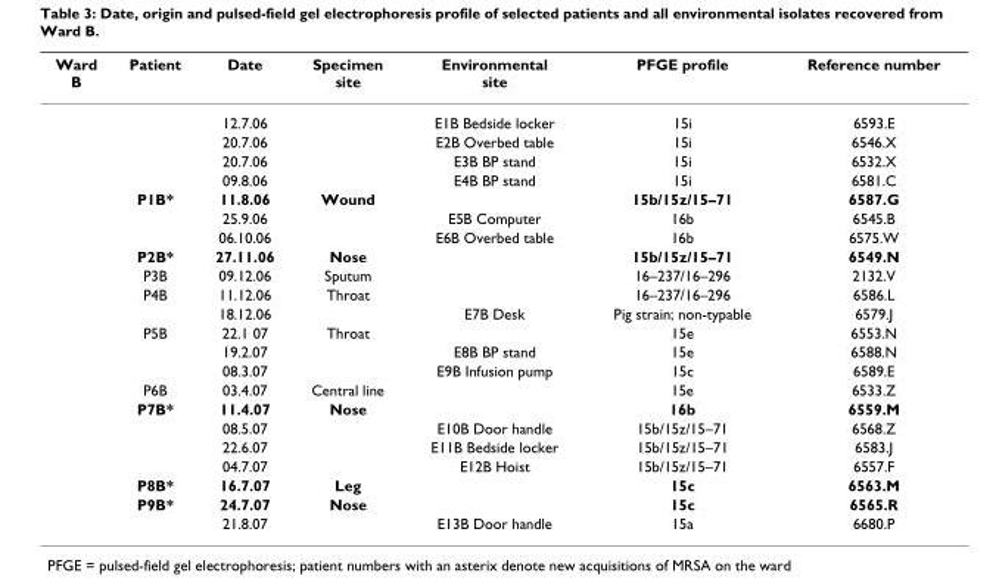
<table><thead><tr><td>Ward B</td><td>Patient</td><td>Date</td><td>Specimen site</td><td>Environmental site</td><td>PFGE profile</td><td>Reference number</td></tr></thead><tbody><tr><td></td><td></td><td>12.7.06</td><td></td><td>E1B Bedside locker</td><td>15i</td><td>6593.E</td></tr><tr><td></td><td></td><td>20.7.06</td><td></td><td>E2B Overbed table</td><td>15i</td><td>6546.X</td></tr><tr><td></td><td></td><td>20.7.06</td><td></td><td>E3B BP stand</td><td>15i</td><td>6532.X</td></tr><tr><td></td><td></td><td>09.8.06</td><td></td><td>E4B BP stand</td><td>15i</td><td>6581.C</td></tr><tr><td></td><td>P1B*</td><td>11.8.06</td><td>Wound</td><td></td><td>15b/15z/15–71</td><td>6587.G</td></tr><tr><td></td><td></td><td>25.9.06</td><td></td><td>E5B Computer</td><td>16b</td><td>6545.B</td></tr><tr><td></td><td></td><td>06.10.06</td><td></td><td>E6B Overbed table</td><td>16b</td><td>6575.W</td></tr><tr><td></td><td>P2B*</td><td>27.11.06</td><td>Nose</td><td></td><td>15b/15z/15–71</td><td>6549.N</td></tr><tr><td></td><td>P3B</td><td>09.12.06</td><td>Sputum</td><td></td><td>16–237/16–296</td><td>2132.V</td></tr><tr><td></td><td>P4B</td><td>11.12.06</td><td>Throat</td><td></td><td>16–237/16–296</td><td>6586.L</td></tr><tr><td></td><td></td><td>18.12.06</td><td></td><td>E7B Desk</td><td>Pig strain; non-typable</td><td>6579.J</td></tr><tr><td></td><td>P5B</td><td>22.1 07</td><td>Throat</td><td></td><td>15e</td><td>6553.N</td></tr><tr><td></td><td></td><td>19.2.07</td><td></td><td>E8B BP stand</td><td>15e</td><td>6588.N</td></tr><tr><td></td><td></td><td>08.3.07</td><td></td><td>E9B Infusion pump</td><td>15c</td><td>6589.E</td></tr><tr><td></td><td>P6B</td><td>03.4.07</td><td>Central line</td><td></td><td>15e</td><td>6533.Z</td></tr><tr><td></td><td>P7B*</td><td>11.4.07</td><td>Nose</td><td></td><td>16b</td><td>6559.M</td></tr><tr><td></td><td></td><td>08.5.07</td><td></td><td>E10B Door handle</td><td>15b/15z/15–71</td><td>6568.Z</td></tr><tr><td></td><td></td><td>22.6.07</td><td></td><td>E11B Bedside locker</td><td>15b/15z/15–71</td><td>6583.J</td></tr><tr><td></td><td></td><td>04.7.07</td><td></td><td>E12B Hoist</td><td>15b/15z/15–71</td><td>6557.F</td></tr><tr><td></td><td>P8B*</td><td>16.7.07</td><td>Leg</td><td></td><td>15c</td><td>6563.M</td></tr><tr><td></td><td>P9B*</td><td>24.7.07</td><td>Nose</td><td></td><td>15c</td><td>6565.R</td></tr><tr><td></td><td></td><td>21.8.07</td><td></td><td>E13B Door handle</td><td>15a</td><td>6680.P</td></tr></tbody></table>